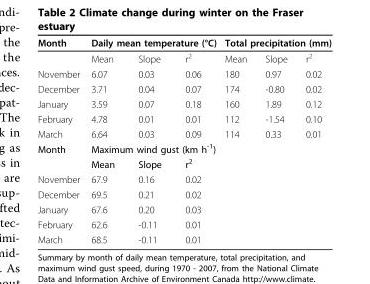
<table><thead><tr><td rowspan="2">Month</td><td colspan="3">Daily mean temperature (°C)</td><td colspan="3">Total precipitation (mm)</td></tr><tr><td>Mean</td><td>Slope</td><td>r<sup>2</sup></td><td>Mean</td><td>Slope</td><td>r<sup>2</sup></td></tr></thead><tbody><tr><td>November</td><td>6.07</td><td>0.03</td><td>0.06</td><td>180</td><td>0.97</td><td>0.02</td></tr><tr><td>December</td><td>3.71</td><td>0.04</td><td>0.07</td><td>174</td><td>-0.80</td><td>0.02</td></tr><tr><td>January</td><td>3.59</td><td>0.07</td><td>0.18</td><td>160</td><td>1.89</td><td>0.12</td></tr><tr><td>February</td><td>4.78</td><td>0.01</td><td>0.01</td><td>112</td><td>-1.54</td><td>0.10</td></tr><tr><td>March</td><td>6.64</td><td>0.03</td><td>0.09</td><td>114</td><td>0.33</td><td>0.01</td></tr><tr><td rowspan="2">Month</td><td colspan="3">Maximum wind gust (km h<sup>-1</sup>)</td><td></td><td></td><td></td></tr><tr><td>Mean</td><td>Slope</td><td>r<sup>2</sup></td><td></td><td></td><td></td></tr><tr><td>November</td><td>67.9</td><td>0.16</td><td>0.02</td><td></td><td></td><td></td></tr><tr><td>December</td><td>69.5</td><td>0.21</td><td>0.02</td><td></td><td></td><td></td></tr><tr><td>January</td><td>67.6</td><td>0.20</td><td>0.03</td><td></td><td></td><td></td></tr><tr><td>February</td><td>62.6</td><td>-0.11</td><td>0.01</td><td></td><td></td><td></td></tr><tr><td>March</td><td>68.5</td><td>-0.11</td><td>0.01</td><td></td><td></td><td></td></tr></tbody></table>